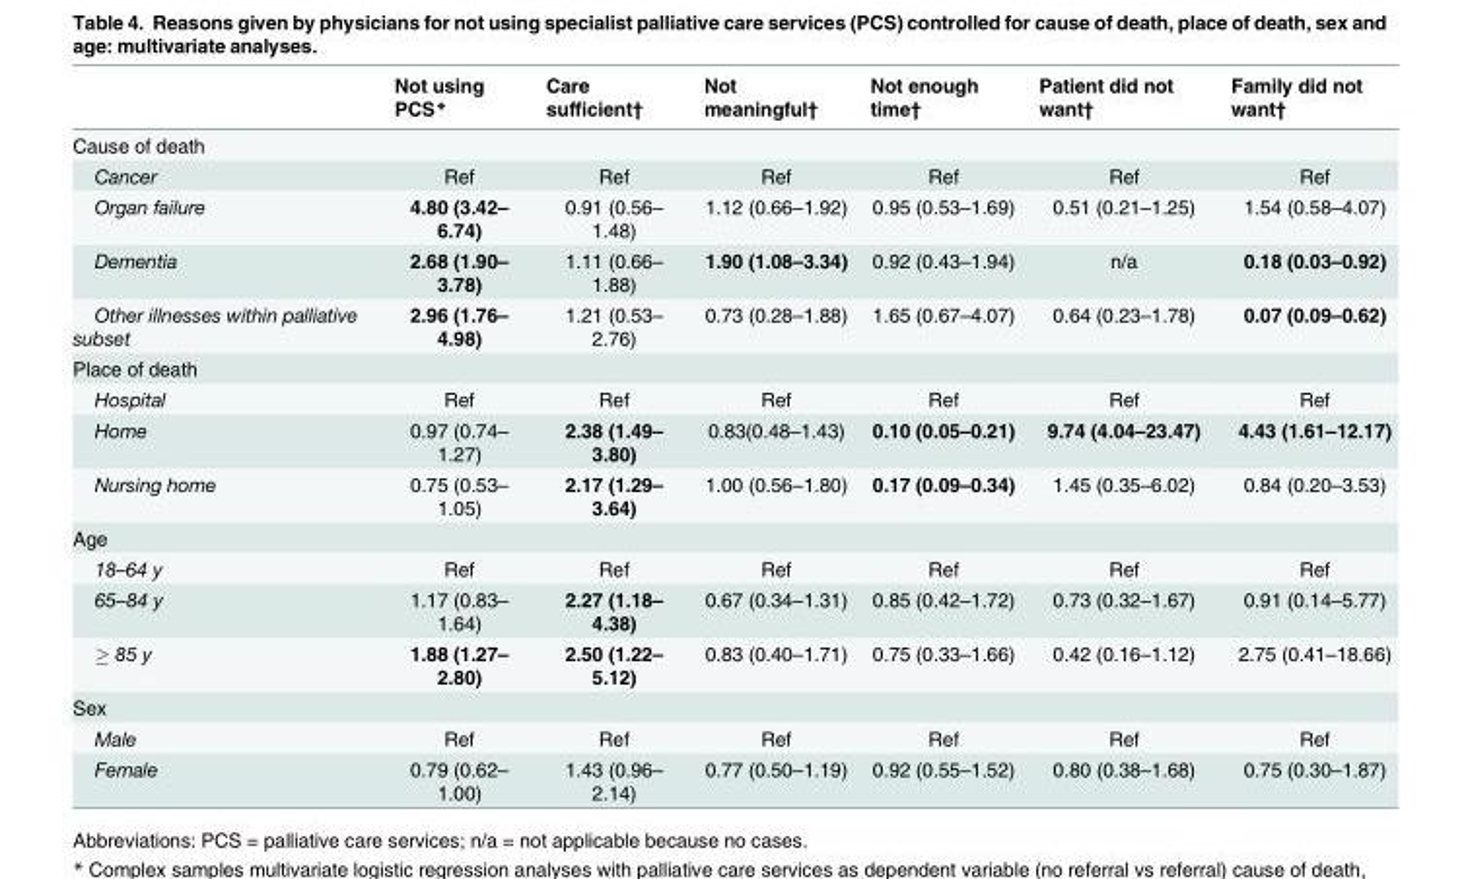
<table><thead><tr><td></td><td>Not using PCS*</td><td>Care sufficient†</td><td>Not meaningful†</td><td>Not enough time†</td><td>Patient did not want†</td><td>Family did not want†</td></tr></thead><tbody><tr><td colspan="7">Cause of death</td></tr><tr><td>Cancer</td><td>Ref</td><td>Ref</td><td>Ref</td><td>Ref</td><td>Ref</td><td>Ref</td></tr><tr><td>Organ failure</td><td>4.80 (3.42– 6.74)</td><td>0.91 (0.56– 1.48)</td><td>1.12 (0.66–1.92)</td><td>0.95 (0.53–1.69)</td><td>0.51 (0.21–1.25)</td><td>1.54 (0.58–4.07)</td></tr><tr><td>Dementia</td><td>2.68 (1.90– 3.78)</td><td>1.11 (0.66– 1.88)</td><td>1.90 (1.08–3.34)</td><td>0.92 (0.43–1.94)</td><td>n/a</td><td>0.18 (0.03–0.92)</td></tr><tr><td>Other illnesses within palliative subset</td><td>2.96 (1.76– 4.98)</td><td>1.21 (0.53– 2.76)</td><td>0.73 (0.28–1.88)</td><td>1.65 (0.67–4.07)</td><td>0.64 (0.23–1.78)</td><td>0.07 (0.09–0.62)</td></tr><tr><td colspan="7">Place of death</td></tr><tr><td>Hospital</td><td>Ref</td><td>Ref</td><td>Ref</td><td>Ref</td><td>Ref</td><td>Ref</td></tr><tr><td>Home</td><td>0.97 (0.74– 1.27)</td><td>2.38 (1.49– 3.80)</td><td>0.83(0.48–1.43)</td><td>0.10 (0.05–0.21)</td><td>9.74 (4.04–23.47)</td><td>4.43 (1.61–12.17)</td></tr><tr><td>Nursing home</td><td>0.75 (0.53– 1.05)</td><td>2.17 (1.29– 3.64)</td><td>1.00 (0.56–1.80)</td><td>0.17 (0.09–0.34)</td><td>1.45 (0.35–6.02)</td><td>0.84 (0.20–3.53)</td></tr><tr><td colspan="7">Age</td></tr><tr><td>18–64 y</td><td>Ref</td><td>Ref</td><td>Ref</td><td>Ref</td><td>Ref</td><td>Ref</td></tr><tr><td>65–84 y</td><td>1.17 (0.83– 1.64)</td><td>2.27 (1.18– 4.38)</td><td>0.67 (0.34–1.31)</td><td>0.85 (0.42–1.72)</td><td>0.73 (0.32–1.67)</td><td>0.91 (0.14–5.77)</td></tr><tr><td>≥ 85 y</td><td>1.88 (1.27– 2.80)</td><td>2.50 (1.22– 5.12)</td><td>0.83 (0.40–1.71)</td><td>0.75 (0.33–1.66)</td><td>0.42 (0.16–1.12)</td><td>2.75 (0.41–18.66)</td></tr><tr><td colspan="7">Sex</td></tr><tr><td>Male</td><td>Ref</td><td>Ref</td><td>Ref</td><td>Ref</td><td>Ref</td><td>Ref</td></tr><tr><td>Female</td><td>0.79 (0.62– 1.00)</td><td>1.43 (0.96– 2.14)</td><td>0.77 (0.50–1.19)</td><td>0.92 (0.55–1.52)</td><td>0.80 (0.38–1.68)</td><td>0.75 (0.30–1.87)</td></tr></tbody></table>